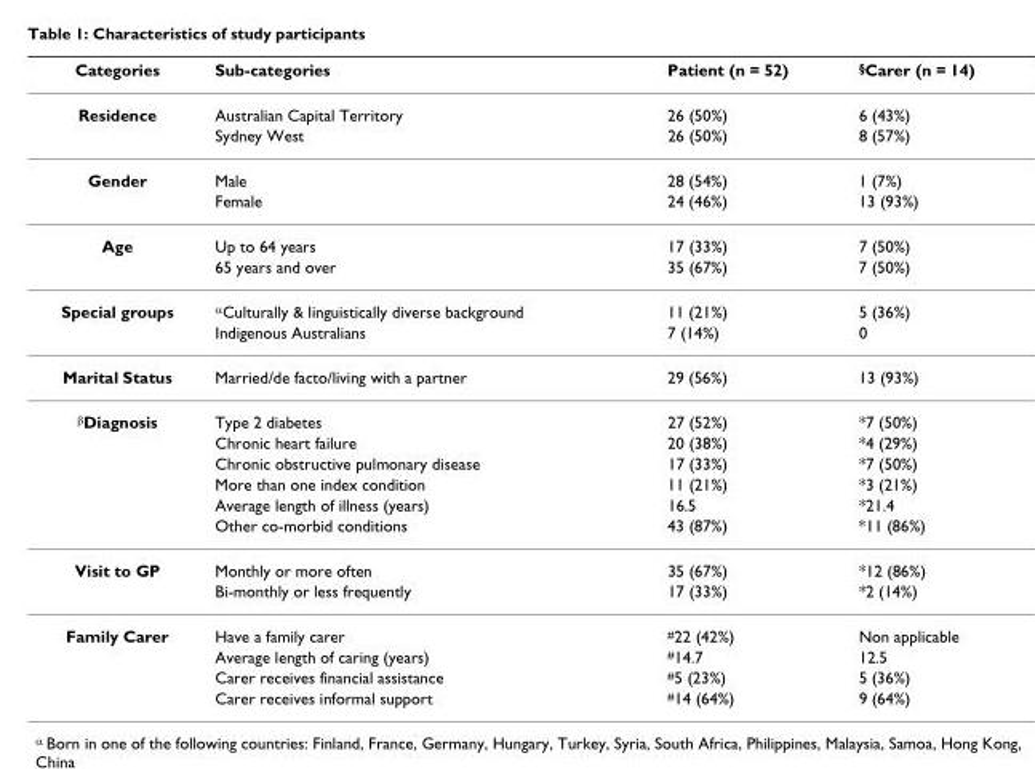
<table><thead><tr><td>Categories</td><td>Sub-categories</td><td>Patient (n = 52)</td><td><sup>§</sup>Carer (n = 14)</td></tr></thead><tbody><tr><td rowspan="2">Residence</td><td>Australian Capital Territory</td><td>26 (50%)</td><td>6 (43%)</td></tr><tr><td>Sydney West</td><td>26 (50%)</td><td>8 (57%)</td></tr><tr><td rowspan="2">Gender</td><td>Male</td><td>28 (54%)</td><td>1 (7%)</td></tr><tr><td>Female</td><td>24 (46%)</td><td>13 (93%)</td></tr><tr><td rowspan="2">Age</td><td>Up to 64 years</td><td>17 (33%)</td><td>7 (50%)</td></tr><tr><td>65 years and over</td><td>35 (67%)</td><td>7 (50%)</td></tr><tr><td rowspan="2">Special groups</td><td><sup>α</sup>Culturally &amp; linguistically diverse background</td><td>11 (21%)</td><td>5 (36%)</td></tr><tr><td>Indigenous Australians</td><td>7 (14%)</td><td>0</td></tr><tr><td>Marital Status</td><td>Married/de facto/living with a partner</td><td>29 (56%)</td><td>13 (93%)</td></tr><tr><td rowspan="6"><sup>β</sup>Diagnosis</td><td>Type 2 diabetes</td><td>27 (52%)</td><td>*7 (50%)</td></tr><tr><td>Chronic heart failure</td><td>20 (38%)</td><td>*4 (29%)</td></tr><tr><td>Chronic obstructive pulmonary disease</td><td>17 (33%)</td><td>*7 (50%)</td></tr><tr><td>More than one index condition</td><td>11 (21%)</td><td>*3 (21%)</td></tr><tr><td>Average length of illness (years)</td><td>16.5</td><td>*21.4</td></tr><tr><td>Other co-morbid conditions</td><td>43 (87%)</td><td>*11 (86%)</td></tr><tr><td rowspan="2">Visit to GP</td><td>Monthly or more often</td><td>35 (67%)</td><td>*12 (86%)</td></tr><tr><td>Bi-monthly or less frequently</td><td>17 (33%)</td><td>*2 (14%)</td></tr><tr><td rowspan="4">Family Carer</td><td>Have a family carer</td><td><sup>#</sup>22 (42%)</td><td>Non applicable</td></tr><tr><td>Average length of caring (years)</td><td><sup>#</sup>14.7</td><td>12.5</td></tr><tr><td>Carer receives financial assistance</td><td><sup>#</sup>5 (23%)</td><td>5 (36%)</td></tr><tr><td>Carer receives informal support</td><td><sup>#</sup>14 (64%)</td><td>9 (64%)</td></tr></tbody></table>